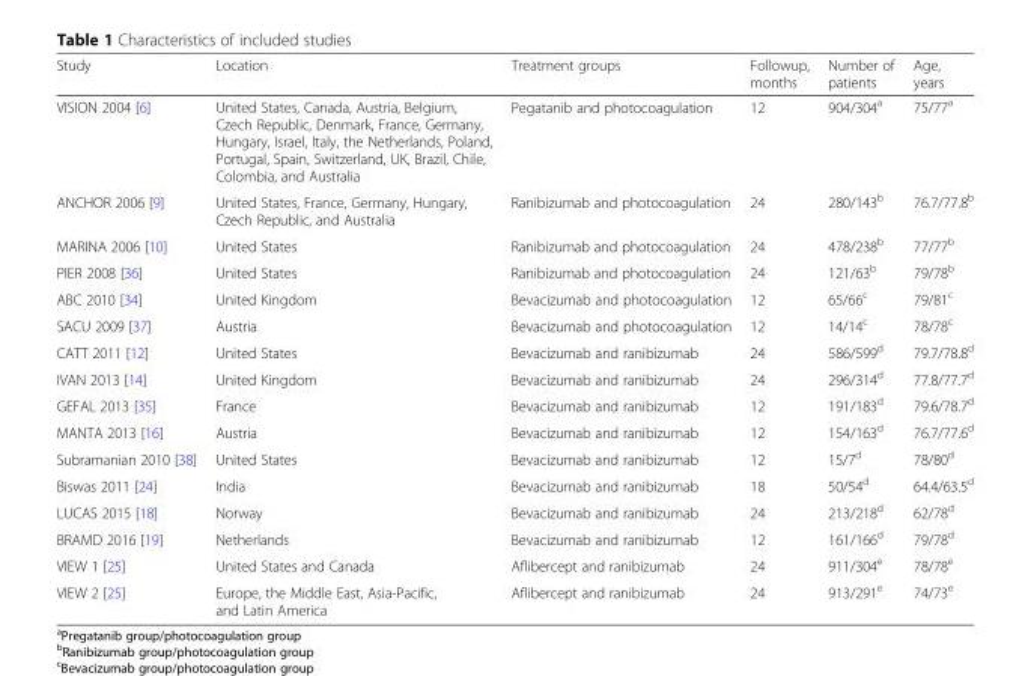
<table><thead><tr><td>Study</td><td>Location</td><td>Treatment groups</td><td>Followup, months</td><td>Number of patients</td><td>Age, years</td></tr></thead><tbody><tr><td>VISION 2004 [6]</td><td>United States, Canada, Austria, Belgium, Czech Republic, Denmark, France, Germany, Hungary, Israel, Italy, the Netherlands, Poland, Portugal, Spain, Switzerland, UK, Brazil, Chile, Colombia, and Australia</td><td>Pegatanib and photocoagulation</td><td>12</td><td>904/304<sup>a</sup></td><td>75/77<sup>a</sup></td></tr><tr><td>ANCHOR 2006 [9]</td><td>United States, France, Germany, Hungary, Czech Republic, and Australia</td><td>Ranibizumab and photocoagulation</td><td>24</td><td>280/143<sup>b</sup></td><td>76.7/77.8<sup>b</sup></td></tr><tr><td>MARINA 2006 [10]</td><td>United States</td><td>Ranibizumab and photocoagulation</td><td>24</td><td>478/238<sup>b</sup></td><td>77/77<sup>b</sup></td></tr><tr><td>PIER 2008 [36]</td><td>United States</td><td>Ranibizumab and photocoagulation</td><td>24</td><td>121/63<sup>b</sup></td><td>79/78<sup>b</sup></td></tr><tr><td>ABC 2010 [34]</td><td>United Kingdom</td><td>Bevacizumab and photocoagulation</td><td>12</td><td>65/66<sup>c</sup></td><td>79/81<sup>c</sup></td></tr><tr><td>SACU 2009 [37]</td><td>Austria</td><td>Bevacizumab and photocoagulation</td><td>12</td><td>14/14<sup>c</sup></td><td>78/78<sup>c</sup></td></tr><tr><td>CATT 2011 [12]</td><td>United States</td><td>Bevacizumab and ranibizumab</td><td>24</td><td>586/599<sup>d</sup></td><td>79.7/78.8<sup>d</sup></td></tr><tr><td>IVAN 2013 [14]</td><td>United Kingdom</td><td>Bevacizumab and ranibizumab</td><td>24</td><td>296/314<sup>d</sup></td><td>77.8/77.7<sup>d</sup></td></tr><tr><td>GEFAL 2013 [35]</td><td>France</td><td>Bevacizumab and ranibizumab</td><td>12</td><td>191/183<sup>d</sup></td><td>79.6/78.7<sup>d</sup></td></tr><tr><td>MANTA 2013 [16]</td><td>Austria</td><td>Bevacizumab and ranibizumab</td><td>12</td><td>154/163<sup>d</sup></td><td>76.7/77.6<sup>d</sup></td></tr><tr><td>Subramanian 2010 [38]</td><td>United States</td><td>Bevacizumab and ranibizumab</td><td>12</td><td>15/7<sup>d</sup></td><td>78/80<sup>d</sup></td></tr><tr><td>Biswas 2011 [24]</td><td>India</td><td>Bevacizumab and ranibizumab</td><td>18</td><td>50/54<sup>d</sup></td><td>64.4/63.5<sup>d</sup></td></tr><tr><td>LUCAS 2015 [18]</td><td>Norway</td><td>Bevacizumab and ranibizumab</td><td>24</td><td>213/218<sup>d</sup></td><td>62/78<sup>d</sup></td></tr><tr><td>BRAMD 2016 [19]</td><td>Netherlands</td><td>Bevacizumab and ranibizumab</td><td>12</td><td>161/166<sup>d</sup></td><td>79/78<sup>d</sup></td></tr><tr><td>VIEW 1 [25]</td><td>United States and Canada</td><td>Aflibercept and ranibizumab</td><td>24</td><td>911/304<sup>e</sup></td><td>78/78<sup>e</sup></td></tr><tr><td>VIEW 2 [25]</td><td>Europe, the Middle East, Asia-Pacific, and Latin America</td><td>Aflibercept and ranibizumab</td><td>24</td><td>913/291<sup>e</sup></td><td>74/73<sup>e</sup></td></tr></tbody></table>